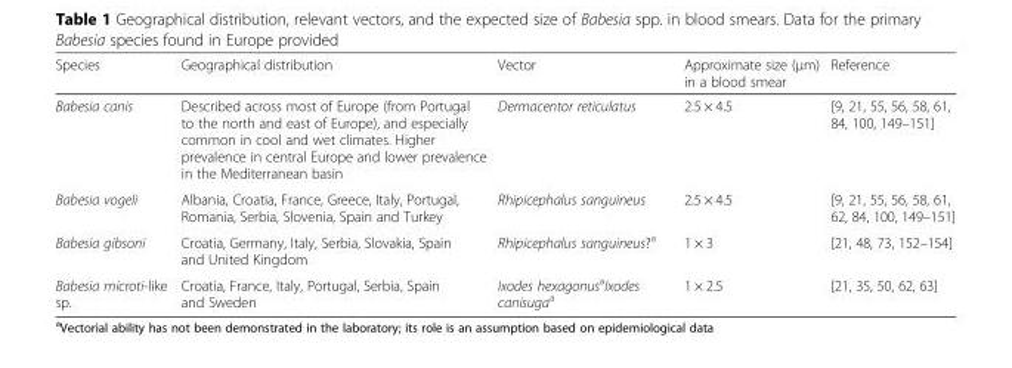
<table><thead><tr><td>Species</td><td>Geographical distribution</td><td>Vector</td><td>Approximate size (μm) in a blood smear</td><td>Reference</td></tr></thead><tbody><tr><td>Babesia canis</td><td>Described across most of Europe (from Portugal to the north and east of Europe), and especially common in cool and wet climates. Higher prevalence in central Europe and lower prevalence in the Mediterranean basin</td><td>Dermacentor reticulatus</td><td>2.5 × 4.5</td><td>[9, 21, 55, 56, 58, 61, 84, 100, 149–151]</td></tr><tr><td>Babesia vogeli</td><td>Albania, Croatia, France, Greece, Italy, Portugal, Romania, Serbia, Slovenia, Spain and Turkey</td><td>Rhipicephalus sanguineus</td><td>2.5 × 4.5</td><td>[9, 21, 55, 56, 58, 61, 62, 84, 100, 149–151]</td></tr><tr><td>Babesia gibsoni</td><td>Croatia, Germany, Italy, Serbia, Slovakia, Spain and United Kingdom</td><td>Rhipicephalus sanguineus?<sup>a</sup></td><td>1 × 3</td><td>[21, 48, 73, 152–154]</td></tr><tr><td>Babesia microti-like sp.</td><td>Croatia, France, Italy, Portugal, Serbia, Spain and Sweden</td><td>Ixodes hexagonus<sup>a</sup>Ixodes canisuga<sup>a</sup></td><td>1 × 2.5</td><td>[21, 35, 50, 62, 63]</td></tr></tbody></table>